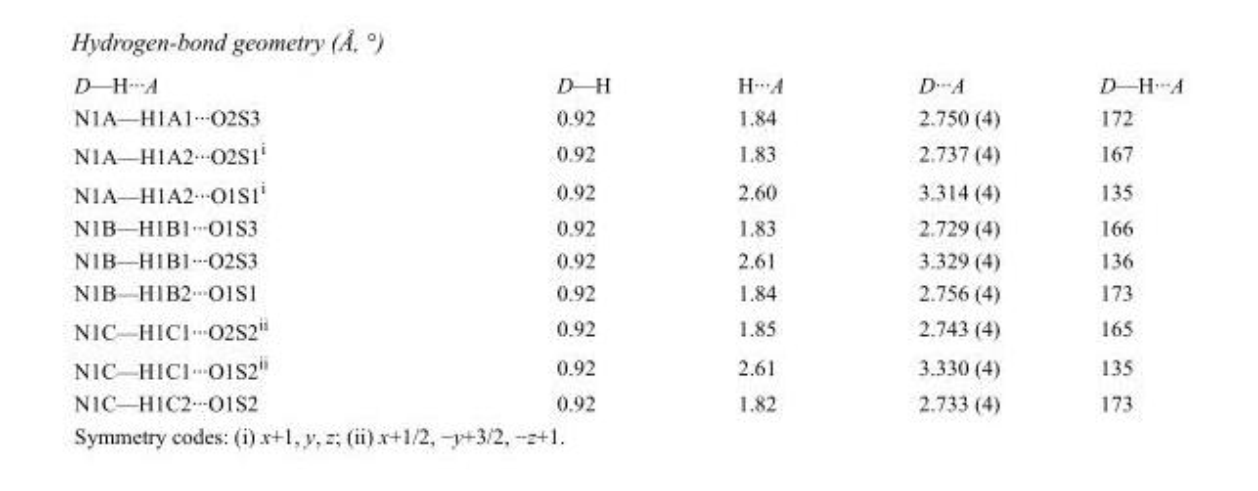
<table><tbody><tr><td>D—H···A</td><td>D—H</td><td>H···A</td><td>D···A</td><td>D—H···A</td></tr><tr><td>N1A—H1A1···O2S3</td><td>0.92</td><td>1.84</td><td>2.750 (4)</td><td>172</td></tr><tr><td>N1A—H1A2···O2S1<sup>i</sup></td><td>0.92</td><td>1.83</td><td>2.737 (4)</td><td>167</td></tr><tr><td>N1A—H1A2···O1S1<sup>i</sup></td><td>0.92</td><td>2.60</td><td>3.314 (4)</td><td>135</td></tr><tr><td>N1B—H1B1···O1S3</td><td>0.92</td><td>1.83</td><td>2.729 (4)</td><td>166</td></tr><tr><td>N1B—H1B1···O2S3</td><td>0.92</td><td>2.61</td><td>3.329 (4)</td><td>136</td></tr><tr><td>N1B—H1B2···O1S1</td><td>0.92</td><td>1.84</td><td>2.756 (4)</td><td>173</td></tr><tr><td>N1C—H1C1···O2S2<sup>ii</sup></td><td>0.92</td><td>1.85</td><td>2.743 (4)</td><td>165</td></tr><tr><td>N1C—H1C1···O1S2<sup>ii</sup></td><td>0.92</td><td>2.61</td><td>3.330 (4)</td><td>135</td></tr><tr><td>N1C—H1C2···O1S2</td><td>0.92</td><td>1.82</td><td>2.733 (4)</td><td>173</td></tr></tbody></table>